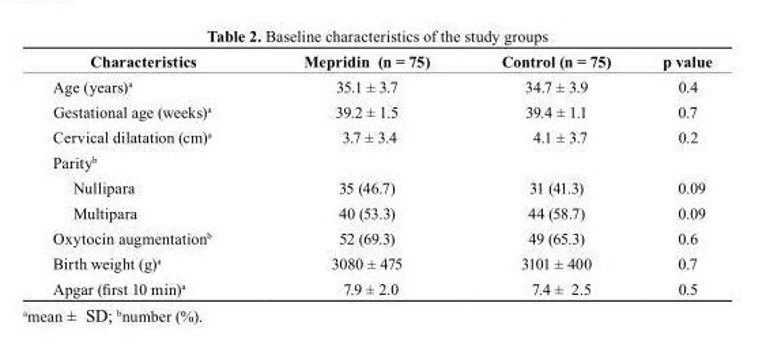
<table><thead><tr><td>characteristics</td><td>Mepridin (n = 75)</td><td>control (n = 75)</td><td>p value</td></tr></thead><tbody><tr><td>Age (years)<sup>a</sup></td><td>35.1 ± 3.7</td><td>34.7 ± 3.9</td><td>0.4</td></tr><tr><td>Gestational age (weeks)<sup>a</sup></td><td>39.2 ± 1.5</td><td>39.4 ± 1.1</td><td>0.7</td></tr><tr><td>Cervical dilatation (cm)<sup>a</sup></td><td>3.7 ± 3.4</td><td>4.1 ± 3.7</td><td>0.2</td></tr><tr><td colspan="4">Parity<sup>b</sup></td></tr><tr><td>Nullipara</td><td>35 (46.7)</td><td>31 (41.3)</td><td>0.09</td></tr><tr><td>Multipara</td><td>40 (53.3)</td><td>44 (58.7)</td><td>0.09</td></tr><tr><td>Oxytocin augmentation<sup>b</sup></td><td>52 (69.3)</td><td>49 (65.3)</td><td>0.6</td></tr><tr><td>Birth weight (g)<sup>a</sup></td><td>3080 ± 475</td><td>3101 ± 400</td><td>0.7</td></tr><tr><td>Apgar (first 10 min)<sup>a</sup></td><td>7.9 ± 2.0</td><td>7.4 ± 2.5</td><td>0.5</td></tr></tbody></table>